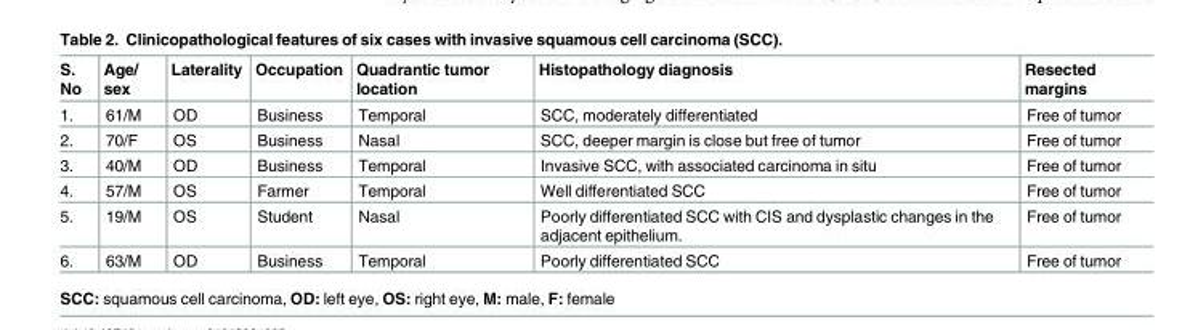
<table><thead><tr><td>S. No</td><td>Age/ sex</td><td>Laterality</td><td>Occupation</td><td>Quadrantic tumor location</td><td>Histopathology diagnosis</td><td>Resected margins</td></tr></thead><tbody><tr><td>1.</td><td>61/M</td><td>OD</td><td>Business</td><td>Temporal</td><td>SCC, moderately differentiated</td><td>Free of tumor</td></tr><tr><td>2.</td><td>70/F</td><td>OS</td><td>Business</td><td>Nasal</td><td>SCC, deeper margin is close but free of tumor</td><td>Free of tumor</td></tr><tr><td>3.</td><td>40/M</td><td>OD</td><td>Business</td><td>Temporal</td><td>Invasive SCC, with associated carcinoma in situ</td><td>Free of tumor</td></tr><tr><td>4.</td><td>57/M</td><td>OS</td><td>Farmer</td><td>Temporal</td><td>Well differentiated SCC</td><td>Free of tumor</td></tr><tr><td>5.</td><td>19/M</td><td>OS</td><td>Student</td><td>Nasal</td><td>Poorly differentiated SCC with CIS and dysplastic changes in the adjacent epithelium.</td><td>Free of tumor</td></tr><tr><td>6.</td><td>63/M</td><td>OD</td><td>Business</td><td>Temporal</td><td>Poorly differentiated SCC</td><td>Free of tumor</td></tr></tbody></table>